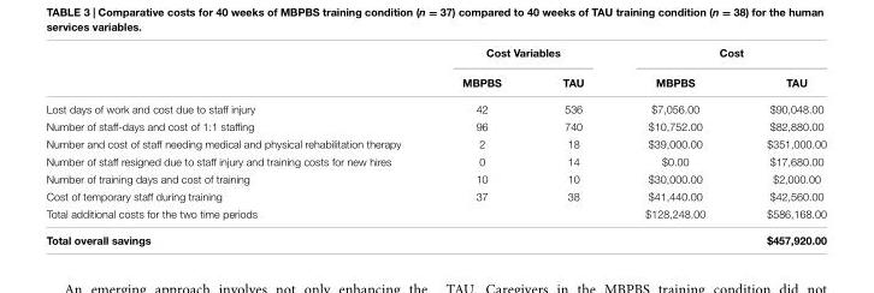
<table><thead><tr><td rowspan="2"></td><td colspan="2">Cost Variables</td><td colspan="2">Cost</td></tr><tr><td>MBPBS</td><td>TAU</td><td>MBPBS</td><td>TAU</td></tr></thead><tbody><tr><td>Lost days of work and cost due to staff injury</td><td>42</td><td>536</td><td>$7,056.00</td><td>$90,048.00</td></tr><tr><td>Number of staff-days and cost of 1:1 staffing</td><td>96</td><td>740</td><td>$10,752.00</td><td>$82,880.00</td></tr><tr><td>Number and cost of staff needing medical and physical rehabilitation therapy</td><td>2</td><td>18</td><td>$39,000.00</td><td>$351,000.00</td></tr><tr><td>Number of staff resigned due to staff injury and training costs for new hires</td><td>0</td><td>14</td><td>$0.00</td><td>$17,680.00</td></tr><tr><td>Number of training days and cost of training</td><td>10</td><td>10</td><td>$30,000.00</td><td>$2,000.00</td></tr><tr><td>Cost of temporary staff during training</td><td>37</td><td>38</td><td>$41,440.00</td><td>$42,560.00</td></tr><tr><td>Total additional costs for the two time periods</td><td></td><td></td><td>$128,248.00</td><td>$586,168.00</td></tr><tr><td>Total overall savings</td><td></td><td></td><td></td><td>$457,920.00</td></tr></tbody></table>